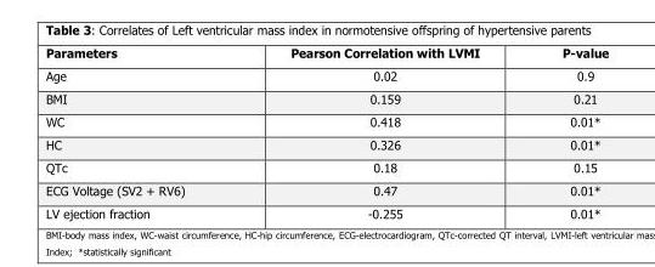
<table><thead><tr><td>Parameters</td><td>Pearson Correlation with LVMI</td><td>P-value</td></tr></thead><tbody><tr><td>Age</td><td>0.02</td><td>0.9</td></tr><tr><td>BMI</td><td>0.159</td><td>0.21</td></tr><tr><td>WC</td><td>0.418</td><td>0.01*</td></tr><tr><td>HC</td><td>0.326</td><td>0.01*</td></tr><tr><td>QTc</td><td>0.18</td><td>0.15</td></tr><tr><td>ECG Voltage (SV2 + RV6)</td><td>0.47</td><td>0.01*</td></tr><tr><td>LV ejection fraction</td><td>-0.255</td><td>0.01*</td></tr></tbody></table>